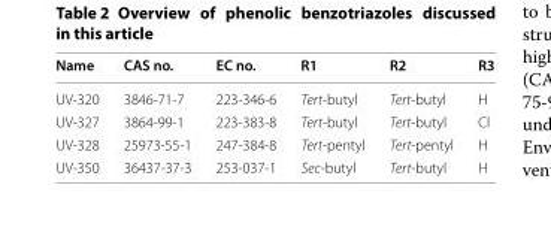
<table><thead><tr><td>Name</td><td>CAS no.</td><td>EC no.</td><td>R1</td><td>R2</td><td>R3</td></tr></thead><tbody><tr><td>UV-320</td><td>3846-71-7</td><td>223-346-6</td><td>Tert-butyl</td><td>Tert-butyl</td><td>H</td></tr><tr><td>UV-327</td><td>3864-99-1</td><td>223-383-8</td><td>Tert-butyl</td><td>Tert-butyl</td><td>Cl</td></tr><tr><td>UV-328</td><td>25973-55-1</td><td>247-384-8</td><td>Tert-pentyl</td><td>Tert-pentyl</td><td>H</td></tr><tr><td>UV-350</td><td>36437-37-3</td><td>253-037-1</td><td>Sec-butyl</td><td>Tert-butyl</td><td>H</td></tr></tbody></table>